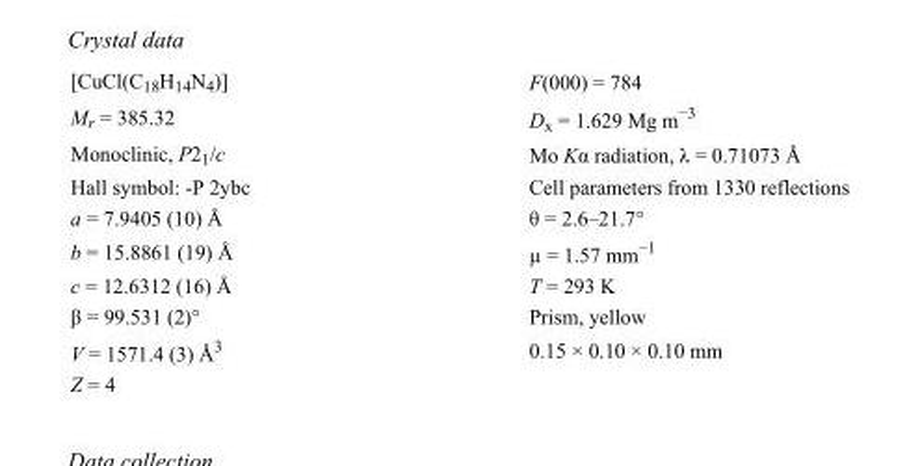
<table><tbody><tr><td>[CuCl(C<sub>18</sub>H<sub>14</sub>N<sub>4</sub>)]</td><td>F(000) = 784</td></tr><tr><td>M<sub>r</sub> = 385.32</td><td>D<sub>x</sub> = 1.629 Mg m<sup>−3</sup></td></tr><tr><td>Monoclinic, P2<sub>1</sub>/c</td><td>Mo Kα radiation, λ = 0.71073 Å</td></tr><tr><td>Hall symbol: -P 2ybc</td><td>Cell parameters from 1330 reflections</td></tr><tr><td>a = 7.9405 (10) Å</td><td>θ = 2.6–21.7°</td></tr><tr><td>b = 15.8861 (19) Å</td><td>µ = 1.57 mm<sup>−1</sup></td></tr><tr><td>c = 12.6312 (16) Å</td><td>T = 293 K</td></tr><tr><td>β = 99.531 (2)°</td><td>Prism, yellow</td></tr><tr><td>V = 1571.4 (3) Å<sup>3</sup></td><td>0.15 × 0.10 × 0.10 mm</td></tr><tr><td>Z = 4</td><td></td></tr></tbody></table>